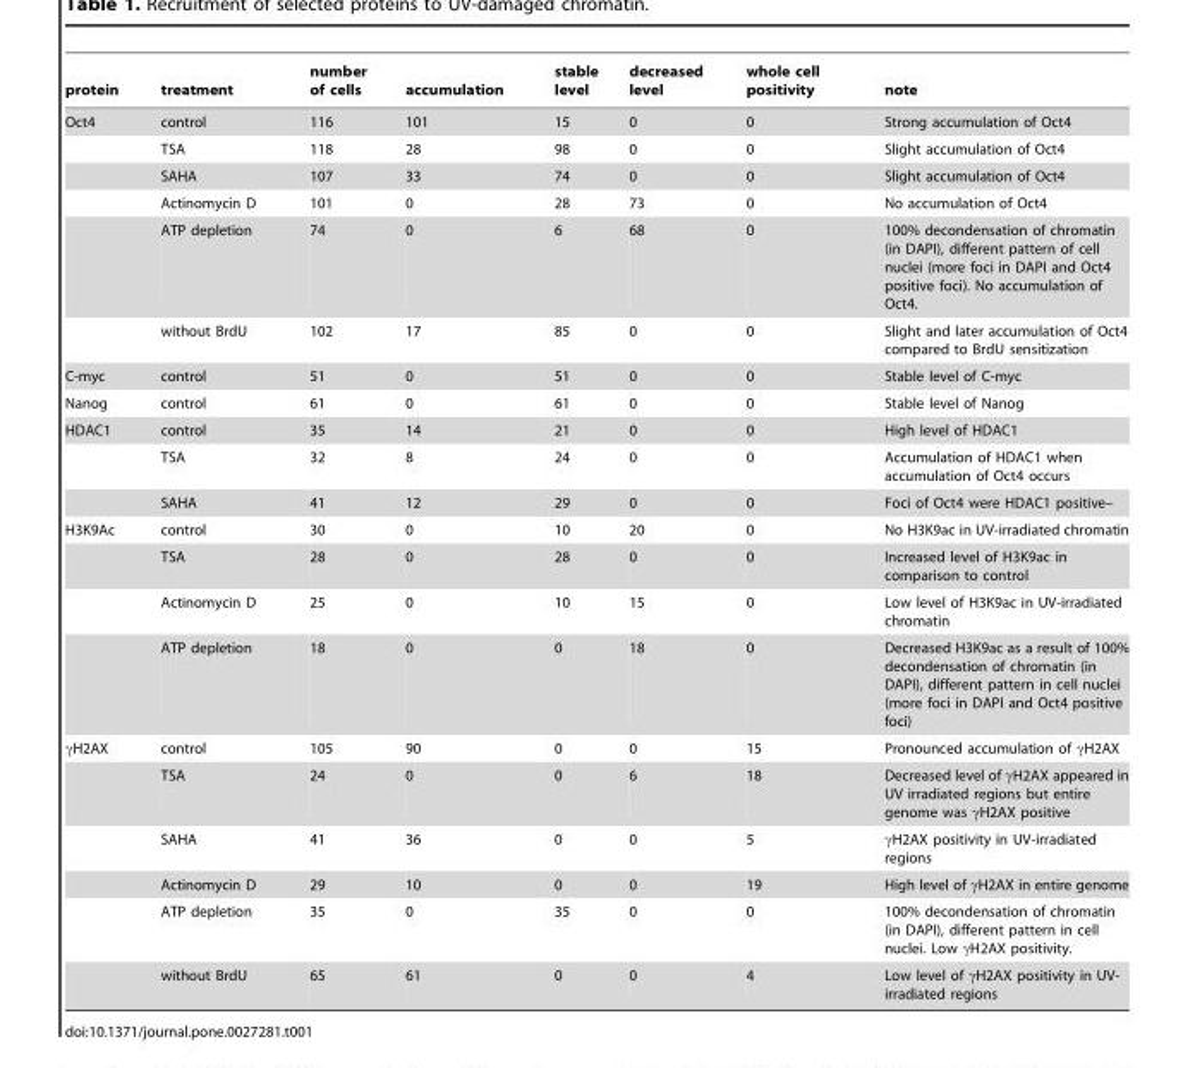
<table><thead><tr><td>protein</td><td>treatment</td><td>number of cells</td><td>accumulation</td><td>stable level</td><td>decreased level</td><td>whole cell positivity</td><td>note</td></tr></thead><tbody><tr><td rowspan="6">Oct4</td><td>control</td><td>116</td><td>101</td><td>15</td><td>0</td><td>0</td><td>Strong accumulation of Oct4</td></tr><tr><td>TSA</td><td>118</td><td>28</td><td>98</td><td>0</td><td>0</td><td>Slight accumulation of Oct4</td></tr><tr><td>SAHA</td><td>107</td><td>33</td><td>74</td><td>0</td><td>0</td><td>Slight accumulation of Oct4</td></tr><tr><td>Actinomycin D</td><td>101</td><td>0</td><td>28</td><td>73</td><td>0</td><td>No accumulation of Oct4</td></tr><tr><td>ATP depletion</td><td>74</td><td>0</td><td>6</td><td>68</td><td>0</td><td>100% decondensation of chromatin (in DAPI), different pattern of cell nuclei (more foci in DAPI and Oct4 positive foci). No accumulation of Oct4.</td></tr><tr><td>without BrdU</td><td>102</td><td>17</td><td>85</td><td>0</td><td>0</td><td>Slight and later accumulation of Oct4 compared to BrdU sensitization</td></tr><tr><td>C-myc</td><td>control</td><td>51</td><td>0</td><td>51</td><td>0</td><td>0</td><td>Stable level of C-myc</td></tr><tr><td>Nanog</td><td>control</td><td>61</td><td>0</td><td>61</td><td>0</td><td>0</td><td>Stable level of Nanog</td></tr><tr><td rowspan="3">HDAC1</td><td>control</td><td>35</td><td>14</td><td>21</td><td>0</td><td>0</td><td>High level of HDAC1</td></tr><tr><td>TSA</td><td>32</td><td>8</td><td>24</td><td>0</td><td>0</td><td>Accumulation of HDAC1 when accumulation of Oct4 occurs</td></tr><tr><td>SAHA</td><td>41</td><td>12</td><td>29</td><td>0</td><td>0</td><td>Foci of Oct4 were HDAC1 positive–</td></tr><tr><td rowspan="4">H3K9Ac</td><td>control</td><td>30</td><td>0</td><td>10</td><td>20</td><td>0</td><td>No H3K9ac in UV-irradiated chromatin</td></tr><tr><td>TSA</td><td>28</td><td>0</td><td>28</td><td>0</td><td>0</td><td>Increased level of H3K9ac in comparison to control</td></tr><tr><td>Actinomycin D</td><td>25</td><td>0</td><td>10</td><td>15</td><td>0</td><td>Low level of H3K9ac in UV-irradiated chromatin</td></tr><tr><td>ATP depletion</td><td>18</td><td>0</td><td>0</td><td>18</td><td>0</td><td>Decreased H3K9ac as a result of 100% decondensation of chromatin (in DAPI), different pattern in cell nuclei (more foci in DAPI and Oct4 positive foci)</td></tr><tr><td rowspan="6">γH2AX</td><td>control</td><td>105</td><td>90</td><td>0</td><td>0</td><td>15</td><td>Pronounced accumulation of γH2AX</td></tr><tr><td>TSA</td><td>24</td><td>0</td><td>0</td><td>6</td><td>18</td><td>Decreased level of γH2AX appeared in UV irradiated regions but entire genome was γH2AX positive</td></tr><tr><td>SAHA</td><td>41</td><td>36</td><td>0</td><td>0</td><td>5</td><td>γH2AX positivity in UV-irradiated regions</td></tr><tr><td>Actinomycin D</td><td>29</td><td>10</td><td>0</td><td>0</td><td>19</td><td>High level of γH2AX in entire genome</td></tr><tr><td>ATP depletion</td><td>35</td><td>0</td><td>35</td><td>0</td><td>0</td><td>100% decondensation of chromatin (in DAPI), different pattern in cell nuclei. Low γH2AX positivity.</td></tr><tr><td>without BrdU</td><td>65</td><td>61</td><td>0</td><td>0</td><td>4</td><td>Low level of γH2AX positivity in UV- irradiated regions</td></tr></tbody></table>